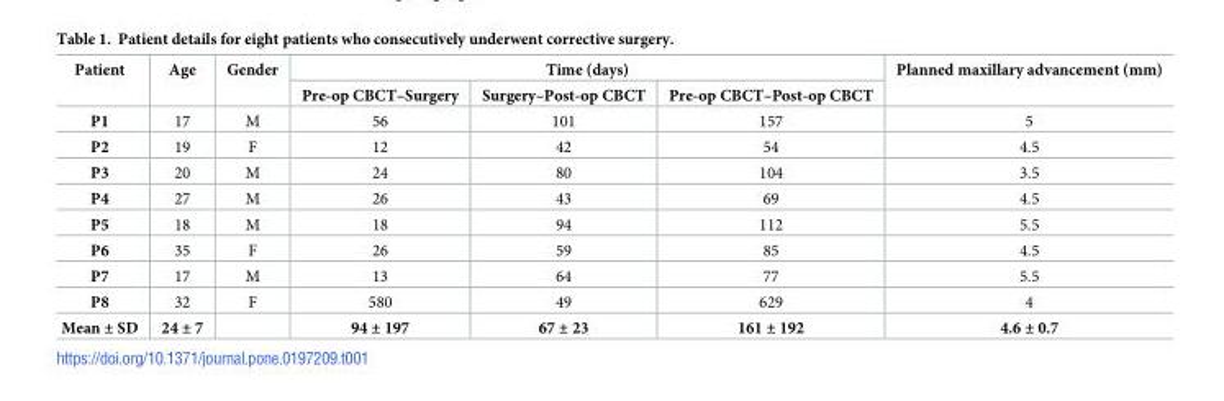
<table><thead><tr><td rowspan="2">Patient</td><td rowspan="2">Age</td><td rowspan="2">Gender</td><td colspan="3">Time (days)</td><td rowspan="2">Planned maxillary advancement (mm)</td></tr><tr><td>Pre-op CBCT–Surgery</td><td>Surgery–Post-op CBCT</td><td>Pre-op CBCT–Post-op CBCT</td></tr></thead><tbody><tr><td>P1</td><td>17</td><td>M</td><td>56</td><td>101</td><td>157</td><td>5</td></tr><tr><td>P2</td><td>19</td><td>F</td><td>12</td><td>42</td><td>54</td><td>4.5</td></tr><tr><td>P3</td><td>20</td><td>M</td><td>24</td><td>80</td><td>104</td><td>3.5</td></tr><tr><td>P4</td><td>27</td><td>M</td><td>26</td><td>43</td><td>69</td><td>4.5</td></tr><tr><td>P5</td><td>18</td><td>M</td><td>18</td><td>94</td><td>112</td><td>5.5</td></tr><tr><td>P6</td><td>35</td><td>F</td><td>26</td><td>59</td><td>85</td><td>4.5</td></tr><tr><td>P7</td><td>17</td><td>M</td><td>13</td><td>64</td><td>77</td><td>5.5</td></tr><tr><td>P8</td><td>32</td><td>F</td><td>580</td><td>49</td><td>629</td><td>4</td></tr><tr><td>Mean ± SD</td><td>24 ± 7</td><td></td><td>94 ± 197</td><td>67 ± 23</td><td>161 ± 192</td><td>4.6 ± 0.7</td></tr></tbody></table>